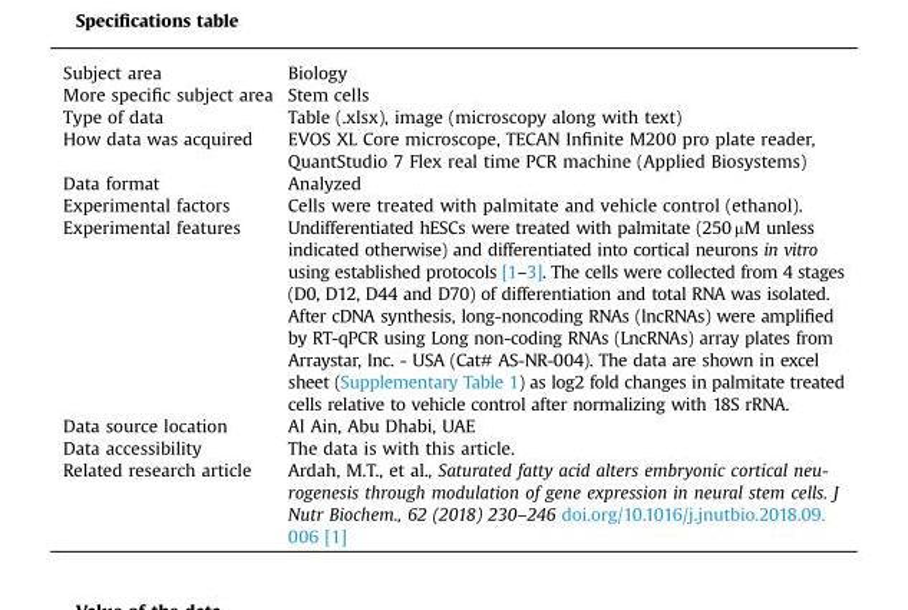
<table><tbody><tr><td>Subject area</td><td>Biology</td></tr><tr><td>More specific subject area</td><td>Stem cells</td></tr><tr><td>Type of data</td><td>Table (.xlsx), image (microscopy along with text)</td></tr><tr><td>How data was acquired</td><td>EVOS XL Core microscope, TECAN Infinite M200 pro plate reader, QuantStudio 7 Flex real time PCR machine (Applied Biosystems)</td></tr><tr><td>Data format</td><td>Analyzed</td></tr><tr><td>Experimental factors</td><td>Cells were treated with palmitate and vehicle control (ethanol).</td></tr><tr><td>Experimental features</td><td>Undifferentiated hESCs were treated with palmitate (250 mM unless indicated otherwise) and differentiated into cortical neurons in vitro using established protocols [1–3]. The cells were collected from 4 stages (D0, D12, D44 and D70) of differentiation and total RNA was isolated. After cDNA synthesis, long-noncoding RNAs (lncRNAs) were amplified by RT-qPCR using Long non-coding RNAs (LncRNAs) array plates from Arraystar, Inc. - USA (Cat# AS-NR-004). The data are shown in excel sheet (Supplementary Table 1) as log2 fold changes in palmitate treated cells relative to vehicle control after normalizing with 18S rRNA.</td></tr><tr><td>Data source location</td><td>Al Ain, Abu Dhabi, UAE</td></tr><tr><td>Data accessibility</td><td>The data is with this article.</td></tr><tr><td>Related research article</td><td>Ardah, M.T., et al., Saturated fatty acid alters embryonic cortical neu- rogenesis through modulation of gene expression in neural stem cells. J Nutr Biochem., 62 (2018) 230–246 doi.org/10.1016/j.jnutbio.2018.09. 006 [1]</td></tr></tbody></table>